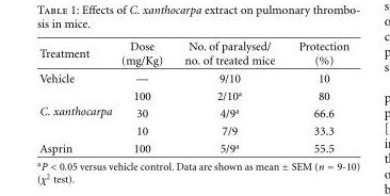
<table><thead><tr><td>Treatment</td><td>Dose (mg/Kg)</td><td>No. of paralysed/ no. of treated mice</td><td>Protection (%)</td></tr></thead><tbody><tr><td>Vehicle</td><td>—</td><td>9/10</td><td>10</td></tr><tr><td rowspan="3">C. xanthocarpa</td><td>100</td><td>2/10<sup>a</sup></td><td>80</td></tr><tr><td>30</td><td>4/9<sup>a</sup></td><td>66.6</td></tr><tr><td>10</td><td>7/9</td><td>33.3</td></tr><tr><td>Asprin</td><td>100</td><td>5/9<sup>a</sup></td><td>55.5</td></tr></tbody></table>